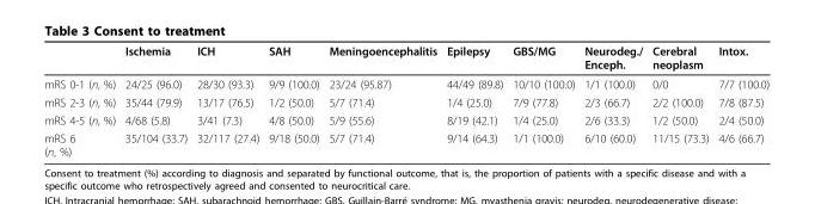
<table><thead><tr><td></td><td>Ischemia</td><td>ICH</td><td>SAH</td><td>Meningoencephalitis</td><td>Epilepsy</td><td>GBS/MG</td><td>Neurodeg./ Enceph.</td><td>Cerebral neoplasm</td><td>Intox.</td></tr></thead><tbody><tr><td>mRS 0-1 (n, %)</td><td>24/25 (96.0)</td><td>28/30 (93.3)</td><td>9/9 (100.0)</td><td>23/24 (95.87)</td><td>44/49 (89.8)</td><td>10/10 (100.0)</td><td>1/1 (100.0)</td><td>0/0</td><td>7/7 (100.0)</td></tr><tr><td>mRS 2-3 (n, %)</td><td>35/44 (79.9)</td><td>13/17 (76.5)</td><td>1/2 (50.0)</td><td>5/7 (71.4)</td><td>1/4 (25.0)</td><td>7/9 (77.8)</td><td>2/3 (66.7)</td><td>2/2 (100.0)</td><td>7/8 (87.5)</td></tr><tr><td>mRS 4-5 (n, %)</td><td>4/68 (5.8)</td><td>3/41 (7.3)</td><td>4/8 (50.0)</td><td>5/9 (55.6)</td><td>8/19 (42.1)</td><td>1/4 (25.0)</td><td>2/6 (33.3)</td><td>1/2 (50.0)</td><td>2/4 (50.0)</td></tr><tr><td>mRS 6 (n, %)</td><td>35/104 (33.7)</td><td>32/117 (27.4)</td><td>9/18 (50.0)</td><td>5/7 (71.4)</td><td>9/14 (64.3)</td><td>1/1 (100.0)</td><td>6/10 (60.0)</td><td>11/15 (73.3)</td><td>4/6 (66.7)</td></tr></tbody></table>